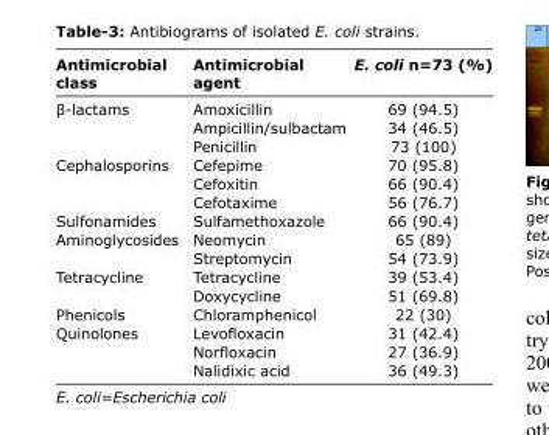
<table><thead><tr><td>Antimicrobial class</td><td>Antimicrobial agent</td><td>E. coli n=73 (%)</td></tr></thead><tbody><tr><td rowspan="3">β‑lactams</td><td>Amoxicillin</td><td>69 (94.5)</td></tr><tr><td>Ampicillin/sulbactam</td><td>34 (46.5)</td></tr><tr><td>Penicillin</td><td>73 (100)</td></tr><tr><td rowspan="3">Cephalosporins</td><td>Cefepime</td><td>70 (95.8)</td></tr><tr><td>Cefoxitin</td><td>66 (90.4)</td></tr><tr><td>Cefotaxime</td><td>56 (76.7)</td></tr><tr><td>Sulfonamides</td><td>Sulfamethoxazole</td><td>66 (90.4)</td></tr><tr><td rowspan="2">Aminoglycosides</td><td>Neomycin</td><td>65 (89)</td></tr><tr><td>Streptomycin</td><td>54 (73.9)</td></tr><tr><td rowspan="2">Tetracycline</td><td>Tetracycline</td><td>39 (53.4)</td></tr><tr><td>Doxycycline</td><td>51 (69.8)</td></tr><tr><td>Phenicols</td><td>Chloramphenicol</td><td>22 (30)</td></tr><tr><td rowspan="3">Quinolones</td><td>Levofloxacin</td><td>31 (42.4)</td></tr><tr><td>Norfloxacin</td><td>27 (36.9)</td></tr><tr><td>Nalidixic acid</td><td>36 (49.3)</td></tr></tbody></table>